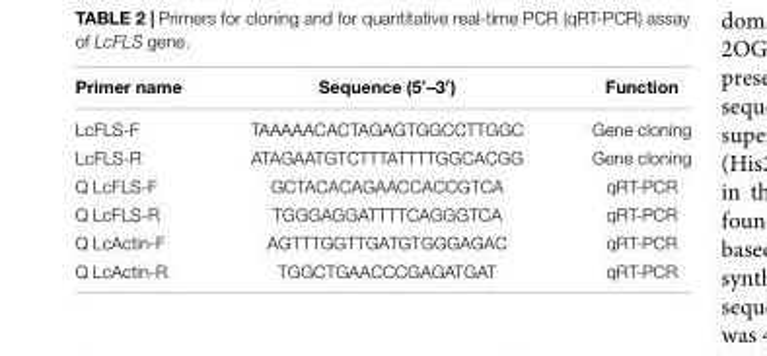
<table><thead><tr><td>Primer name</td><td>Sequence (5′–3′)</td><td>Function</td></tr></thead><tbody><tr><td>LcFLS-F</td><td>TAAAAACACTAGAGTGGCCTTGGC</td><td>Gene cloning</td></tr><tr><td>LcFLS-R</td><td>ATAGAATGTCTTTATTTTGGCACGG</td><td>Gene cloning</td></tr><tr><td>Q LcFLS-F</td><td>GCTACACAGAACCACCGTCA</td><td>qRT-PCR</td></tr><tr><td>Q LcFLS-R</td><td>TGGGAGGATTTTCAGGGTCA</td><td>qRT-PCR</td></tr><tr><td>Q LcActin-F</td><td>AGTTTGGTTGATGTGGGAGAC</td><td>qRT-PCR</td></tr><tr><td>Q LcActin-R</td><td>TGGCTGAACCCGAGATGAT</td><td>qRT-PCR</td></tr></tbody></table>